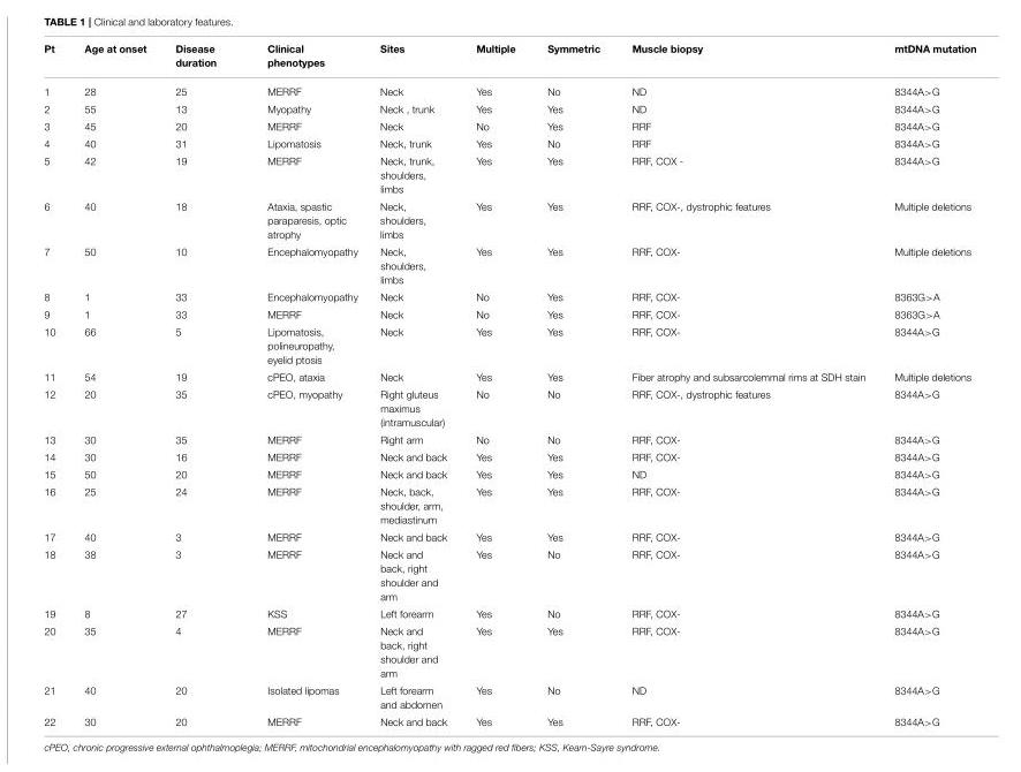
<table><thead><tr><td>Pt</td><td>Age at onset</td><td>Disease duration</td><td>Clinical phenotypes</td><td>Sites</td><td>Multiple</td><td>Symmetric</td><td>Muscle biopsy</td><td>mtDNA mutation</td></tr></thead><tbody><tr><td>1</td><td>28</td><td>25</td><td>MERRF</td><td>Neck</td><td>Yes</td><td>No</td><td>ND</td><td>8344A&gt;G</td></tr><tr><td>2</td><td>55</td><td>13</td><td>Myopathy</td><td>Neck , trunk</td><td>Yes</td><td>Yes</td><td>ND</td><td>8344A&gt;G</td></tr><tr><td>3</td><td>45</td><td>20</td><td>MERRF</td><td>Neck</td><td>No</td><td>Yes</td><td>RRF</td><td>8344A&gt;G</td></tr><tr><td>4</td><td>40</td><td>31</td><td>Lipomatosis</td><td>Neck, trunk</td><td>Yes</td><td>No</td><td>RRF</td><td>8344A&gt;G</td></tr><tr><td>5</td><td>42</td><td>19</td><td>MERRF</td><td>Neck, trunk, shoulders, limbs</td><td>Yes</td><td>Yes</td><td>RRF, COX -</td><td>8344A&gt;G</td></tr><tr><td>6</td><td>40</td><td>18</td><td>Ataxia, spastic paraparesis, optic atrophy</td><td>Neck, shoulders, limbs</td><td>Yes</td><td>Yes</td><td>RRF, COX-, dystrophic features</td><td>Multiple deletions</td></tr><tr><td>7</td><td>50</td><td>10</td><td>Encephalomyopathy</td><td>Neck, shoulders, limbs</td><td>Yes</td><td>Yes</td><td>RRF, COX-</td><td>Multiple deletions</td></tr><tr><td>8</td><td>1</td><td>33</td><td>Encephalomyopathy</td><td>Neck</td><td>No</td><td>Yes</td><td>RRF, COX-</td><td>8363G&gt;A</td></tr><tr><td>9</td><td>1</td><td>33</td><td>MERRF</td><td>Neck</td><td>No</td><td>Yes</td><td>RRF, COX-</td><td>8363G&gt;A</td></tr><tr><td>10</td><td>66</td><td>5</td><td>Lipomatosis, polineuropathy, eyelid ptosis</td><td>Neck</td><td>Yes</td><td>Yes</td><td>RRF, COX-</td><td>8344A&gt;G</td></tr><tr><td>11</td><td>54</td><td>19</td><td>cPEO, ataxia</td><td>Neck</td><td>Yes</td><td>Yes</td><td>Fiber atrophy and subsarcolemmal rims at SDH stain</td><td>Multiple deletions</td></tr><tr><td>12</td><td>20</td><td>35</td><td>cPEO, myopathy</td><td>Right gluteus maximus (intramuscular)</td><td>No</td><td>No</td><td>RRF, COX-, dystrophic features</td><td>8344A&gt;G</td></tr><tr><td>13</td><td>30</td><td>35</td><td>MERRF</td><td>Right arm</td><td>No</td><td>No</td><td>RRF, COX-</td><td>8344A&gt;G</td></tr><tr><td>14</td><td>30</td><td>16</td><td>MERRF</td><td>Neck and back</td><td>Yes</td><td>Yes</td><td>RRF, COX-</td><td>8344A&gt;G</td></tr><tr><td>15</td><td>50</td><td>20</td><td>MERRF</td><td>Neck and back</td><td>Yes</td><td>Yes</td><td>ND</td><td>8344A&gt;G</td></tr><tr><td>16</td><td>25</td><td>24</td><td>MERRF</td><td>Neck, back, shoulder, arm, mediastinum</td><td>Yes</td><td>Yes</td><td>RRF, COX-</td><td>8344A&gt;G</td></tr><tr><td>17</td><td>40</td><td>3</td><td>MERRF</td><td>Neck and back</td><td>Yes</td><td>Yes</td><td>RRF, COX-</td><td>8344A&gt;G</td></tr><tr><td>18</td><td>38</td><td>3</td><td>MERRF</td><td>Neck and back, right shoulder and arm</td><td>Yes</td><td>No</td><td>RRF, COX-</td><td>8344A&gt;G</td></tr><tr><td>19</td><td>8</td><td>27</td><td>KSS</td><td>Left forearm</td><td>Yes</td><td>No</td><td>RRF, COX-</td><td>8344A&gt;G</td></tr><tr><td>20</td><td>35</td><td>4</td><td>MERRF</td><td>Neck and back, right shoulder and arm</td><td>Yes</td><td>Yes</td><td>RRF, COX-</td><td>8344A&gt;G</td></tr><tr><td>21</td><td>40</td><td>20</td><td>Isolated lipomas</td><td>Left forearm and abdomen</td><td>Yes</td><td>No</td><td>ND</td><td>8344A&gt;G</td></tr><tr><td>22</td><td>30</td><td>20</td><td>MERRF</td><td>Neck and back</td><td>Yes</td><td>Yes</td><td>RRF, COX-</td><td>8344A&gt;G</td></tr></tbody></table>